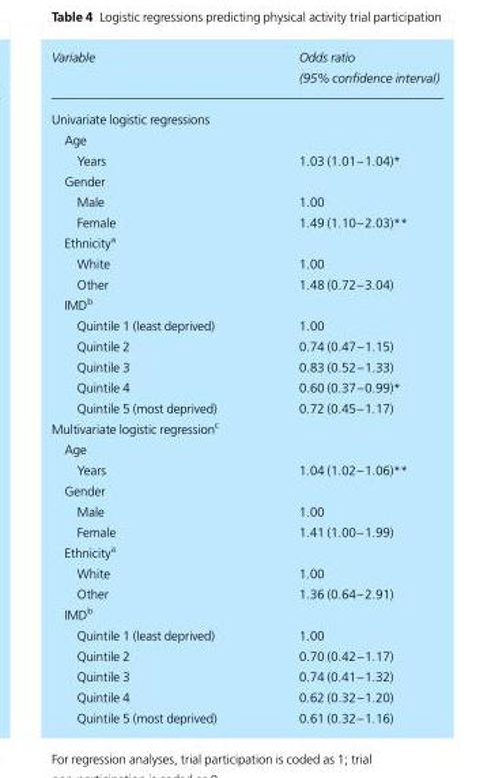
<table><thead><tr><td>Variable</td><td>Odds ratio (95% confidence interval)</td></tr></thead><tbody><tr><td colspan="2">Univariate logistic regressions</td></tr><tr><td colspan="2">Age</td></tr><tr><td>Years</td><td>1.03 (1.01–1.04)*</td></tr><tr><td colspan="2">Gender</td></tr><tr><td>Male</td><td>1.00</td></tr><tr><td>Female</td><td>1.49 (1.10–2.03)**</td></tr><tr><td colspan="2">Ethnicity<sup>a</sup></td></tr><tr><td>White</td><td>1.00</td></tr><tr><td>Other</td><td>1.48 (0.72–3.04)</td></tr><tr><td colspan="2">IMD<sup>b</sup></td></tr><tr><td>Quintile 1 (least deprived)</td><td>1.00</td></tr><tr><td>Quintile 2</td><td>0.74 (0.47–1.15)</td></tr><tr><td>Quintile 3</td><td>0.83 (0.52–1.33)</td></tr><tr><td>Quintile 4</td><td>0.60 (0.37–0.99)*</td></tr><tr><td>Quintile 5 (most deprived)</td><td>0.72 (0.45–1.17)</td></tr><tr><td colspan="2">Multivariate logistic regression<sup>c</sup></td></tr><tr><td colspan="2">Age</td></tr><tr><td>Years</td><td>1.04 (1.02–1.06)**</td></tr><tr><td colspan="2">Gender</td></tr><tr><td>Male</td><td>1.00</td></tr><tr><td>Female</td><td>1.41 (1.00–1.99)</td></tr><tr><td colspan="2">Ethnicity<sup>a</sup></td></tr><tr><td>White</td><td>1.00</td></tr><tr><td>Other</td><td>1.36 (0.64–2.91)</td></tr><tr><td colspan="2">IMD<sup>b</sup></td></tr><tr><td>Quintile 1 (least deprived)</td><td>1.00</td></tr><tr><td>Quintile 2</td><td>0.70 (0.42–1.17)</td></tr><tr><td>Quintile 3</td><td>0.74 (0.41–1.32)</td></tr><tr><td>Quintile 4</td><td>0.62 (0.32–1.20)</td></tr><tr><td>Quintile 5 (most deprived)</td><td>0.61 (0.32–1.16)</td></tr></tbody></table>